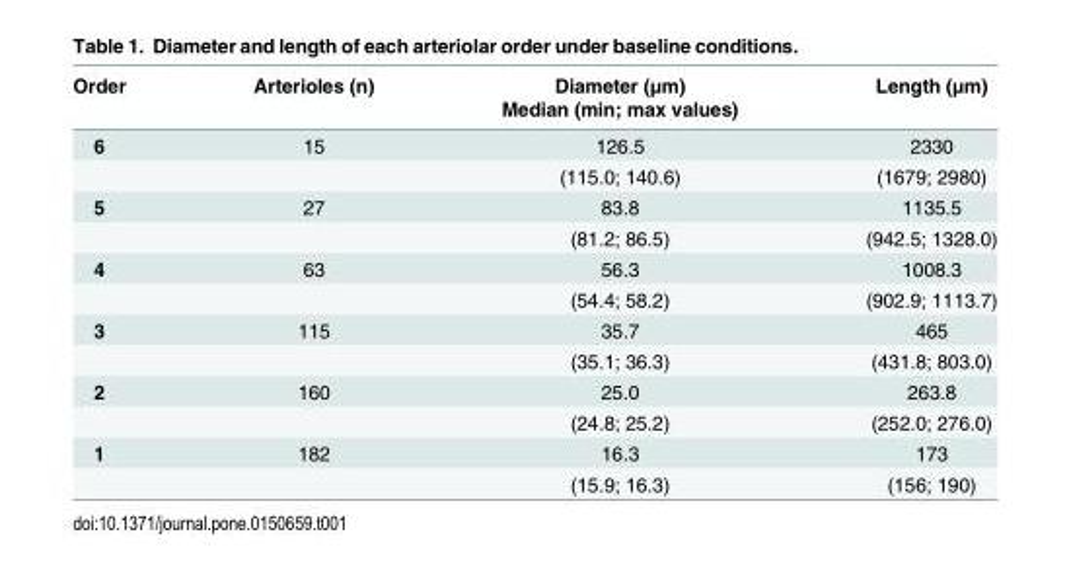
<table><thead><tr><td rowspan="2">Order</td><td rowspan="2">Arterioles (n)</td><td rowspan="2">Diameter (μm) Median (min; max values)</td><td rowspan="2">Length (μm)</td></tr><tr></tr></thead><tbody><tr><td rowspan="2">6</td><td>15</td><td>126.5</td><td>2330</td></tr><tr><td></td><td>(115.0; 140.6)</td><td>(1679; 2980)</td></tr><tr><td rowspan="2">5</td><td>27</td><td>83.8</td><td>1135.5</td></tr><tr><td></td><td>(81.2; 86.5)</td><td>(942.5; 1328.0)</td></tr><tr><td rowspan="2">4</td><td>63</td><td>56.3</td><td>1008.3</td></tr><tr><td></td><td>(54.4; 58.2)</td><td>(902.9; 1113.7)</td></tr><tr><td rowspan="2">3</td><td>115</td><td>35.7</td><td>465</td></tr><tr><td></td><td>(35.1; 36.3)</td><td>(431.8; 803.0)</td></tr><tr><td rowspan="2">2</td><td>160</td><td>25.0</td><td>263.8</td></tr><tr><td></td><td>(24.8; 25.2)</td><td>(252.0; 276.0)</td></tr><tr><td rowspan="2">1</td><td>182</td><td>16.3</td><td>173</td></tr><tr><td></td><td>(15.9; 16.3)</td><td>(156; 190)</td></tr></tbody></table>